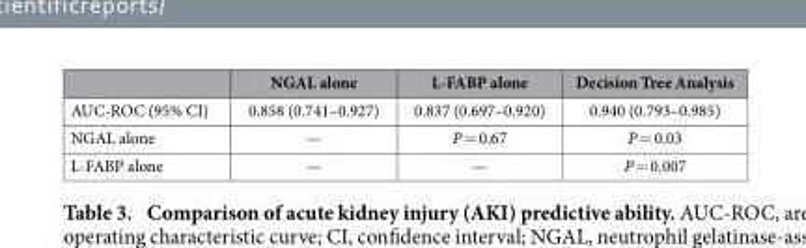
<table><thead><tr><td></td><td>NGAL alone</td><td>L-FABP alone</td><td>Decision Tree Analysis</td></tr></thead><tbody><tr><td>AUC-ROC (95% CI)</td><td>0.858 (0.741–0.927)</td><td>0.837 (0.697–0.920)</td><td>0.940 (0.793–0.985)</td></tr><tr><td>NGAL alone</td><td>—</td><td>P = 0.67</td><td>P = 0.03</td></tr><tr><td>L-FABP alone</td><td>—</td><td>—</td><td>P = 0.007</td></tr></tbody></table>